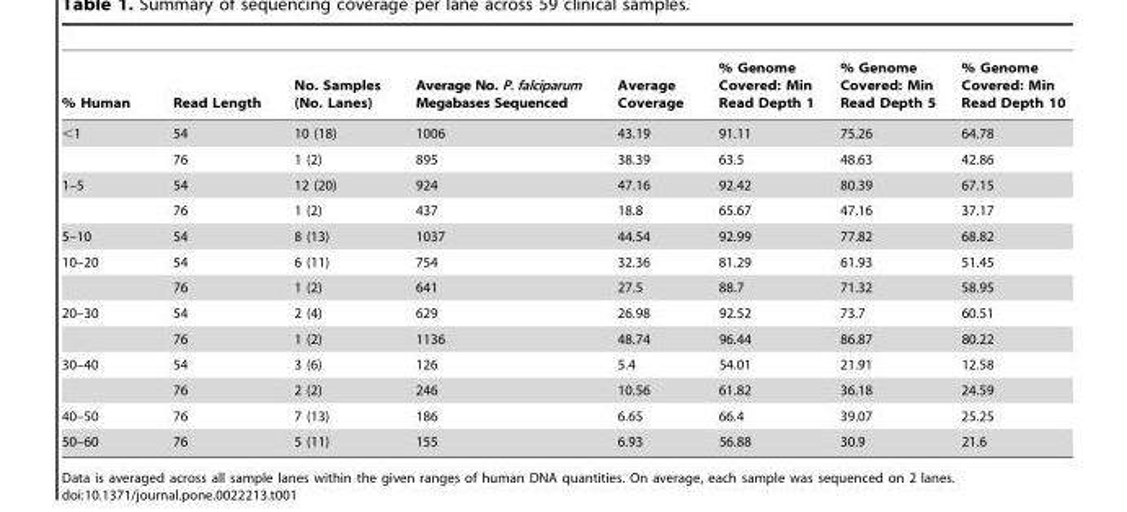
<table><thead><tr><td>% Human</td><td>Read Length</td><td>No. Samples (No. Lanes)</td><td>Average No. P. falciparum Megabases Sequenced</td><td>Average Coverage</td><td>% Genome Covered: Min Read Depth 1</td><td>% Genome Covered: Min Read Depth 5</td><td>% Genome Covered: Min Read Depth 10</td></tr></thead><tbody><tr><td rowspan="2">&lt;1</td><td>54</td><td>10 (18)</td><td>1006</td><td>43.19</td><td>91.11</td><td>75.26</td><td>64.78</td></tr><tr><td>76</td><td>1 (2)</td><td>895</td><td>38.39</td><td>63.5</td><td>48.63</td><td>42.86</td></tr><tr><td rowspan="2">1–5</td><td>54</td><td>12 (20)</td><td>924</td><td>47.16</td><td>92.42</td><td>80.39</td><td>67.15</td></tr><tr><td>76</td><td>1 (2)</td><td>437</td><td>18.8</td><td>65.67</td><td>47.16</td><td>37.17</td></tr><tr><td>5–10</td><td>54</td><td>8 (13)</td><td>1037</td><td>44.54</td><td>92.99</td><td>77.82</td><td>68.82</td></tr><tr><td rowspan="2">10–20</td><td>54</td><td>6 (11)</td><td>754</td><td>32.36</td><td>81.29</td><td>61.93</td><td>51.45</td></tr><tr><td>76</td><td>1 (2)</td><td>641</td><td>27.5</td><td>88.7</td><td>71.32</td><td>58.95</td></tr><tr><td rowspan="2">20–30</td><td>54</td><td>2 (4)</td><td>629</td><td>26.98</td><td>92.52</td><td>73.7</td><td>60.51</td></tr><tr><td>76</td><td>1 (2)</td><td>1136</td><td>48.74</td><td>96.44</td><td>86.87</td><td>80.22</td></tr><tr><td rowspan="2">30–40</td><td>54</td><td>3 (6)</td><td>126</td><td>5.4</td><td>54.01</td><td>21.91</td><td>12.58</td></tr><tr><td>76</td><td>2 (2)</td><td>246</td><td>10.56</td><td>61.82</td><td>36.18</td><td>24.59</td></tr><tr><td>40–50</td><td>76</td><td>7 (13)</td><td>186</td><td>6.65</td><td>66.4</td><td>39.07</td><td>25.25</td></tr><tr><td>50–60</td><td>76</td><td>5 (11)</td><td>155</td><td>6.93</td><td>56.88</td><td>30.9</td><td>21.6</td></tr></tbody></table>